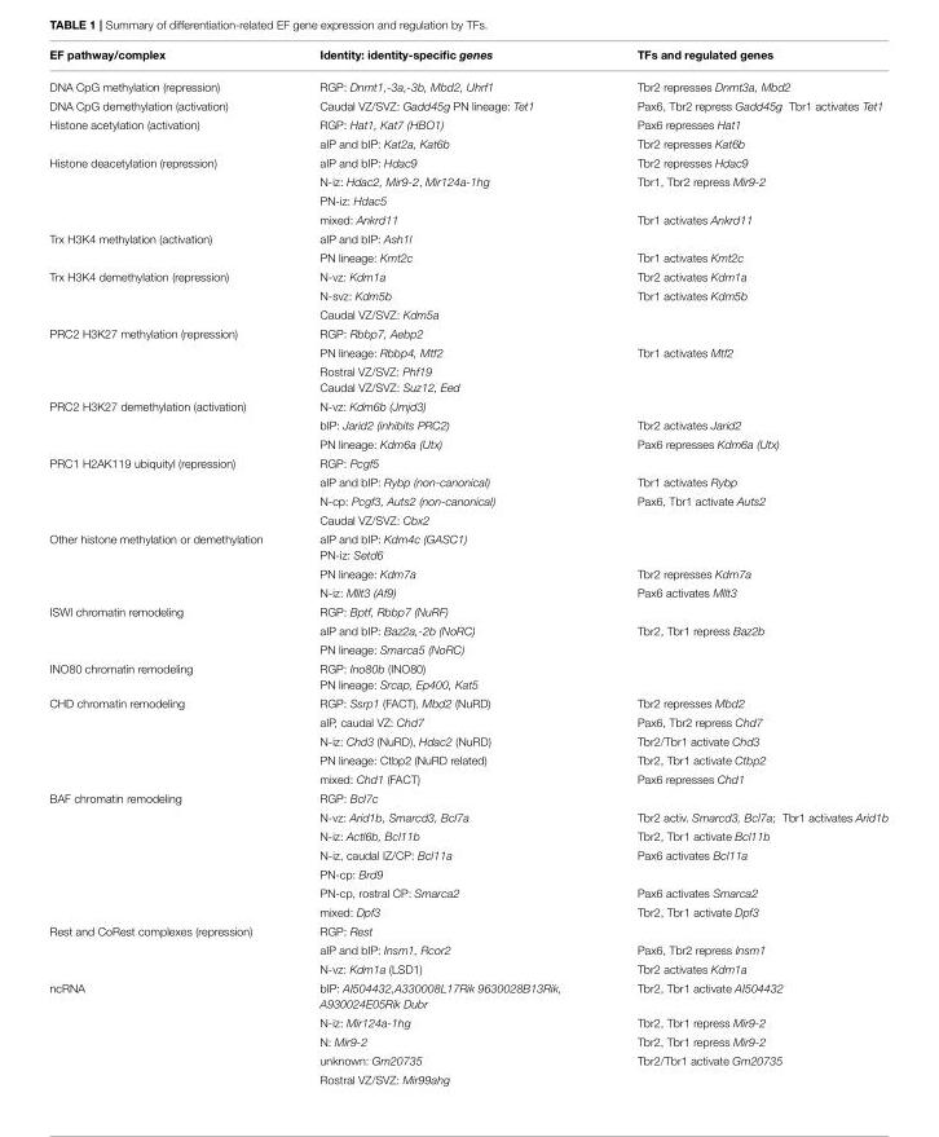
<table><thead><tr><td>EF pathway/complex</td><td>Identity: identity-specific genes</td><td>TFs and regulated genes</td></tr></thead><tbody><tr><td>DNA CpG methylation (repression)</td><td>RGP: Dnmt1,-3a,-3b, Mbd2, Uhrf1</td><td>Tbr2 represses Dnmt3a, Mbd2</td></tr><tr><td>DNA CpG demethylation (activation)</td><td>Caudal VZ/SVZ: Gadd45g PN lineage: Tet1</td><td>Pax6, Tbr2 repress Gadd45g Tbr1 activates Tet1</td></tr><tr><td rowspan="2">Histone acetylation (activation)</td><td>RGP: Hat1, Kat7 (HBO1)</td><td>Pax6 represses Hat1</td></tr><tr><td>aIP and bIP: Kat2a, Kat6b</td><td>Tbr2 represses Kat6b</td></tr><tr><td rowspan="4">Histone deacetylation (repression)</td><td>aIP and bIP: Hdac9</td><td>Tbr2 represses Hdac9</td></tr><tr><td>N-iz: Hdac2, Mir9-2, Mir124a-1hg</td><td>Tbr1, Tbr2 repress Mir9-2</td></tr><tr><td>PN-iz: Hdac5</td><td></td></tr><tr><td>mixed: Ankrd11</td><td>Tbr1 activates Ankrd11</td></tr><tr><td rowspan="2">Trx H3K4 methylation (activation)</td><td>aIP and bIP: Ash1l</td><td></td></tr><tr><td>PN lineage: Kmt2c</td><td>Tbr1 activates Kmt2c</td></tr><tr><td rowspan="3">Trx H3K4 demethylation (repression)</td><td>N-vz: Kdm1a</td><td>Tbr2 activates Kdm1a</td></tr><tr><td>N-svz: Kdm5b</td><td>Tbr1 activates Kdm5b</td></tr><tr><td>Caudal VZ/SVZ: Kdm5a</td><td></td></tr><tr><td rowspan="3">PRC2 H3K27 methylation (repression)</td><td>RGP: Rbbp7, Aebp2</td><td></td></tr><tr><td>PN lineage: Rbbp4, Mtf2</td><td>Tbr1 activates Mtf2</td></tr><tr><td>Rostral VZ/SVZ: Phf19 Caudal VZ/SVZ: Suz12, Eed</td><td></td></tr><tr><td rowspan="3">PRC2 H3K27 demethylation (activation)</td><td>N-vz: Kdm6b (Jmjd3)</td><td></td></tr><tr><td>bIP: Jarid2 (inhibits PRC2)</td><td>Tbr2 activates Jarid2</td></tr><tr><td>PN lineage: Kdm6a (Utx)</td><td>Pax6 represses Kdm6a (Utx)</td></tr><tr><td rowspan="4">PRC1 H2AK119 ubiquityl (repression)</td><td>RGP: Pcgf5</td><td></td></tr><tr><td>aIP and bIP: Rybp (non-canonical)</td><td>Tbr1 activates Rybp</td></tr><tr><td>N-cp: Pcgf3, Auts2 (non-canonical)</td><td>Pax6, Tbr1 activate Auts2</td></tr><tr><td>Caudal VZ/SVZ: Cbx2</td><td></td></tr><tr><td rowspan="3">Other histone methylation or demethylation</td><td>aIP and bIP: Kdm4c (GASC1) PN-iz: Setd6</td><td></td></tr><tr><td>PN lineage: Kdm7a</td><td>Tbr2 represses Kdm7a</td></tr><tr><td>N-iz: Mllt3 (Af9)</td><td>Pax6 activates Mllt3</td></tr><tr><td rowspan="3">ISWI chromatin remodeling</td><td>RGP: Bptf, Rbbp7 (NuRF)</td><td></td></tr><tr><td>aIP and bIP: Baz2a,-2b (NoRC)</td><td>Tbr2, Tbr1 repress Baz2b</td></tr><tr><td>PN lineage: Smarca5 (NoRC)</td><td></td></tr><tr><td>INO80 chromatin remodeling</td><td>RGP: Ino80b (INO80) PN lineage: Srcap, Ep400, Kat5</td><td></td></tr><tr><td rowspan="5">CHD chromatin remodeling</td><td>RGP: Ssrp1 (FACT), Mbd2 (NuRD)</td><td>Tbr2 represses Mbd2</td></tr><tr><td>aIP, caudal VZ: Chd7</td><td>Pax6, Tbr2 repress Chd7</td></tr><tr><td>N-iz: Chd3 (NuRD), Hdac2 (NuRD)</td><td>Tbr2/Tbr1 activate Chd3</td></tr><tr><td>PN lineage: Ctbp2 (NuRD related)</td><td>Tbr2, Tbr1 activate Ctbp2</td></tr><tr><td>mixed: Chd1 (FACT)</td><td>Pax6 represses Chd1</td></tr><tr><td rowspan="7">BAF chromatin remodeling</td><td>RGP: Bcl7c</td><td></td></tr><tr><td>N-vz: Arid1b, Smarcd3, Bcl7a</td><td>Tbr2 activ. Smarcd3, Bcl7a; Tbr1 activates Arid1b</td></tr><tr><td>N-iz: Actl6b, Bcl11b</td><td>Tbr2, Tbr1 activate Bcl11b</td></tr><tr><td>N-iz, caudal IZ/CP: Bcl11a</td><td>Pax6 activates Bcl11a</td></tr><tr><td>PN-cp: Brd9</td><td></td></tr><tr><td>PN-cp, rostral CP: Smarca2</td><td>Pax6 activates Smarca2</td></tr><tr><td>mixed: Dpf3</td><td>Tbr2, Tbr1 activate Dpf3</td></tr><tr><td rowspan="3">Rest and CoRest complexes (repression)</td><td>RGP: Rest</td><td></td></tr><tr><td>aIP and bIP: Insm1, Rcor2</td><td>Pax6, Tbr2 repress Insm1</td></tr><tr><td>N-vz: Kdm1a (LSD1)</td><td>Tbr2 activates Kdm1a</td></tr><tr><td rowspan="5">ncRNA</td><td>bIP: AI504432,A330008L17Rik 9630028B13Rik, A930024E05Rik Dubr</td><td>Tbr2, Tbr1 activate AI504432</td></tr><tr><td>N-iz: Mir124a-1hg</td><td>Tbr2, Tbr1 repress Mir9-2</td></tr><tr><td>N: Mir9-2</td><td>Tbr2, Tbr1 repress Mir9-2</td></tr><tr><td>unknown: Gm20735</td><td>Tbr2/Tbr1 activate Gm20735</td></tr><tr><td>Rostral VZ/SVZ: Mir99ahg</td><td></td></tr></tbody></table>